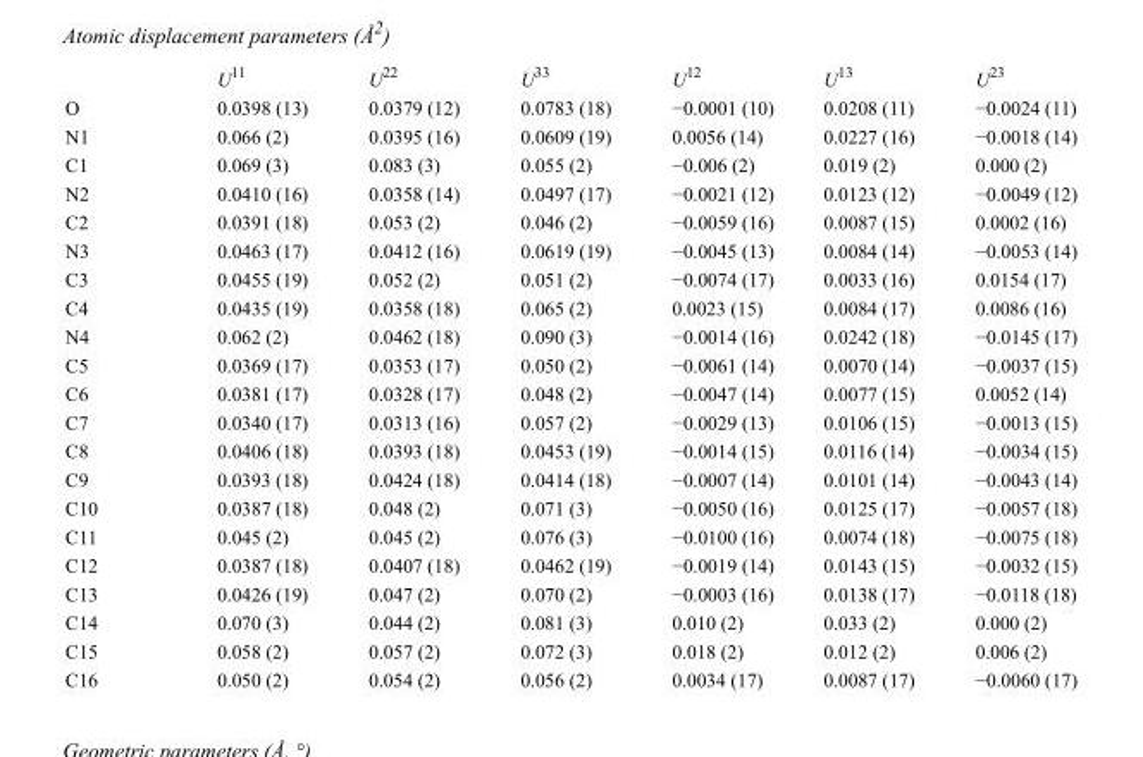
<table><thead><tr><td></td><td>U<sup>11</sup></td><td>U<sup>22</sup></td><td>U<sup>33</sup></td><td>U<sup>12</sup></td><td>U<sup>13</sup></td><td>U<sup>23</sup></td></tr></thead><tbody><tr><td>O</td><td>0.0398 (13)</td><td>0.0379 (12)</td><td>0.0783 (18)</td><td>−0.0001 (10)</td><td>0.0208 (11)</td><td>−0.0024 (11)</td></tr><tr><td>N1</td><td>0.066 (2)</td><td>0.0395 (16)</td><td>0.0609 (19)</td><td>0.0056 (14)</td><td>0.0227 (16)</td><td>−0.0018 (14)</td></tr><tr><td>C1</td><td>0.069 (3)</td><td>0.083 (3)</td><td>0.055 (2)</td><td>−0.006 (2)</td><td>0.019 (2)</td><td>0.000 (2)</td></tr><tr><td>N2</td><td>0.0410 (16)</td><td>0.0358 (14)</td><td>0.0497 (17)</td><td>−0.0021 (12)</td><td>0.0123 (12)</td><td>−0.0049 (12)</td></tr><tr><td>C2</td><td>0.0391 (18)</td><td>0.053 (2)</td><td>0.046 (2)</td><td>−0.0059 (16)</td><td>0.0087 (15)</td><td>0.0002 (16)</td></tr><tr><td>N3</td><td>0.0463 (17)</td><td>0.0412 (16)</td><td>0.0619 (19)</td><td>−0.0045 (13)</td><td>0.0084 (14)</td><td>−0.0053 (14)</td></tr><tr><td>C3</td><td>0.0455 (19)</td><td>0.052 (2)</td><td>0.051 (2)</td><td>−0.0074 (17)</td><td>0.0033 (16)</td><td>0.0154 (17)</td></tr><tr><td>C4</td><td>0.0435 (19)</td><td>0.0358 (18)</td><td>0.065 (2)</td><td>0.0023 (15)</td><td>0.0084 (17)</td><td>0.0086 (16)</td></tr><tr><td>N4</td><td>0.062 (2)</td><td>0.0462 (18)</td><td>0.090 (3)</td><td>−0.0014 (16)</td><td>0.0242 (18)</td><td>−0.0145 (17)</td></tr><tr><td>C5</td><td>0.0369 (17)</td><td>0.0353 (17)</td><td>0.050 (2)</td><td>−0.0061 (14)</td><td>0.0070 (14)</td><td>−0.0037 (15)</td></tr><tr><td>C6</td><td>0.0381 (17)</td><td>0.0328 (17)</td><td>0.048 (2)</td><td>−0.0047 (14)</td><td>0.0077 (15)</td><td>0.0052 (14)</td></tr><tr><td>C7</td><td>0.0340 (17)</td><td>0.0313 (16)</td><td>0.057 (2)</td><td>−0.0029 (13)</td><td>0.0106 (15)</td><td>−0.0013 (15)</td></tr><tr><td>C8</td><td>0.0406 (18)</td><td>0.0393 (18)</td><td>0.0453 (19)</td><td>−0.0014 (15)</td><td>0.0116 (14)</td><td>−0.0034 (15)</td></tr><tr><td>C9</td><td>0.0393 (18)</td><td>0.0424 (18)</td><td>0.0414 (18)</td><td>−0.0007 (14)</td><td>0.0101 (14)</td><td>−0.0043 (14)</td></tr><tr><td>C10</td><td>0.0387 (18)</td><td>0.048 (2)</td><td>0.071 (3)</td><td>−0.0050 (16)</td><td>0.0125 (17)</td><td>−0.0057 (18)</td></tr><tr><td>C11</td><td>0.045 (2)</td><td>0.045 (2)</td><td>0.076 (3)</td><td>−0.0100 (16)</td><td>0.0074 (18)</td><td>−0.0075 (18)</td></tr><tr><td>C12</td><td>0.0387 (18)</td><td>0.0407 (18)</td><td>0.0462 (19)</td><td>−0.0019 (14)</td><td>0.0143 (15)</td><td>−0.0032 (15)</td></tr><tr><td>C13</td><td>0.0426 (19)</td><td>0.047 (2)</td><td>0.070 (2)</td><td>−0.0003 (16)</td><td>0.0138 (17)</td><td>−0.0118 (18)</td></tr><tr><td>C14</td><td>0.070 (3)</td><td>0.044 (2)</td><td>0.081 (3)</td><td>0.010 (2)</td><td>0.033 (2)</td><td>0.000 (2)</td></tr><tr><td>C15</td><td>0.058 (2)</td><td>0.057 (2)</td><td>0.072 (3)</td><td>0.018 (2)</td><td>0.012 (2)</td><td>0.006 (2)</td></tr><tr><td>C16</td><td>0.050 (2)</td><td>0.054 (2)</td><td>0.056 (2)</td><td>0.0034 (17)</td><td>0.0087 (17)</td><td>−0.0060 (17)</td></tr></tbody></table>